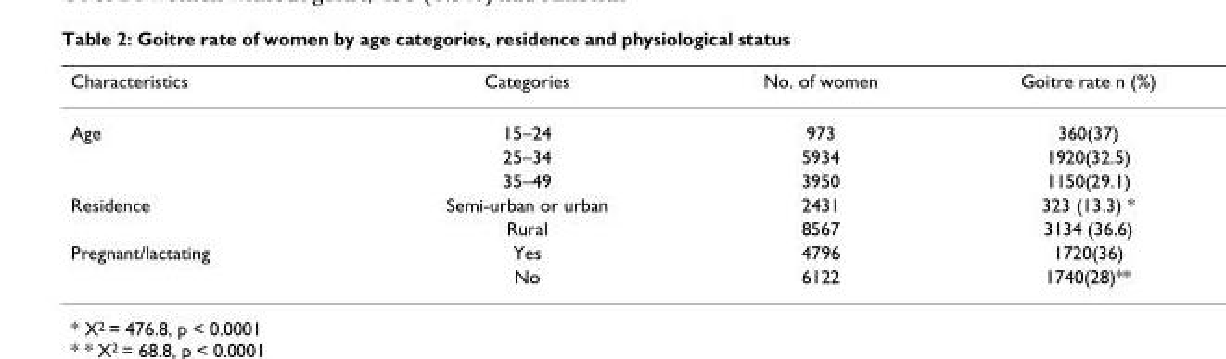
<table><thead><tr><td>Characteristics</td><td>Categories</td><td>No. of women</td><td>Goitre rate n (%)</td></tr></thead><tbody><tr><td rowspan="3">Age</td><td>15–24</td><td>973</td><td>360(37)</td></tr><tr><td>25–34</td><td>5934</td><td>1920(32.5)</td></tr><tr><td>35–49</td><td>3950</td><td>1150(29.1)</td></tr><tr><td rowspan="2">Residence</td><td>Semi-urban or urban</td><td>2431</td><td>323 (13.3) *</td></tr><tr><td>Rural</td><td>8567</td><td>3134 (36.6)</td></tr><tr><td rowspan="2">Pregnant/lactating</td><td>Yes</td><td>4796</td><td>1720(36)</td></tr><tr><td>No</td><td>6122</td><td>1740(28)**</td></tr></tbody></table>